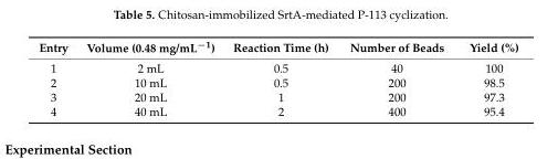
<table><thead><tr><td>Entry</td><td>Volume (0.48 mg/mL<sup>−1</sup>)</td><td>Reaction Time (h)</td><td>Number of Beads</td><td>Yield (%)</td></tr></thead><tbody><tr><td>1</td><td>2 mL</td><td>0.5</td><td>40</td><td>100</td></tr><tr><td>2</td><td>10 mL</td><td>0.5</td><td>200</td><td>98.5</td></tr><tr><td>3</td><td>20 mL</td><td>1</td><td>200</td><td>97.3</td></tr><tr><td>4</td><td>40 mL</td><td>2</td><td>400</td><td>95.4</td></tr></tbody></table>